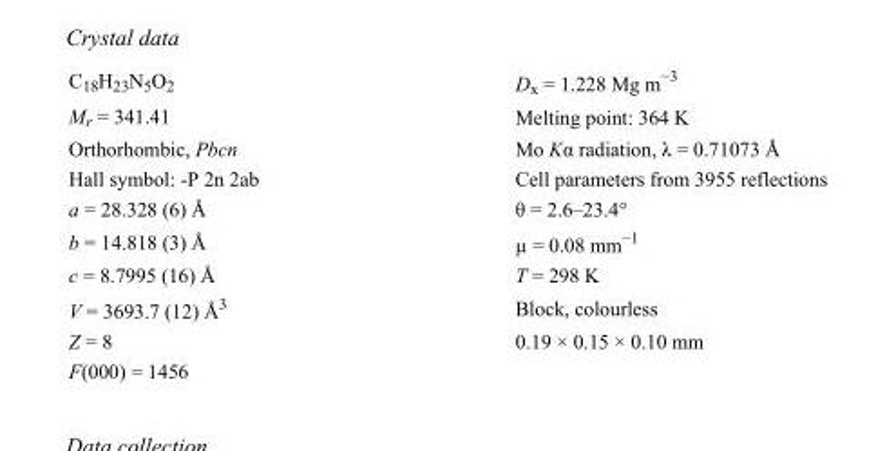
<table><tbody><tr><td>C<sub>18</sub>H<sub>23</sub>N<sub>5</sub>O<sub>2</sub></td><td>D<sub>x</sub> = 1.228 Mg m<sup>−3</sup></td></tr><tr><td>M<sub>r</sub> = 341.41</td><td>Melting point: 364 K</td></tr><tr><td>Orthorhombic, Pbcn</td><td>Mo Kα radiation, λ = 0.71073 Å</td></tr><tr><td>Hall symbol: -P 2n 2ab</td><td>Cell parameters from 3955 reflections</td></tr><tr><td>a = 28.328 (6) Å</td><td>θ = 2.6–23.4°</td></tr><tr><td>b = 14.818 (3) Å</td><td>µ = 0.08 mm<sup>−1</sup></td></tr><tr><td>c = 8.7995 (16) Å</td><td>T = 298 K</td></tr><tr><td>V = 3693.7 (12) Å<sup>3</sup></td><td>Block, colourless</td></tr><tr><td>Z = 8</td><td>0.19 × 0.15 × 0.10 mm</td></tr><tr><td>F(000) = 1456</td><td></td></tr></tbody></table>